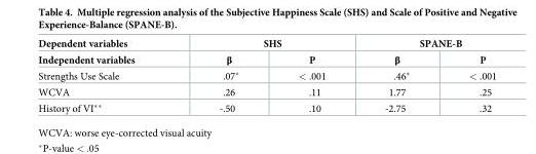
<table><thead><tr><td rowspan="2">Dependent variables Independent variables</td><td colspan="2">SHS</td><td colspan="2">SPANE-B</td></tr><tr><td>β</td><td>P</td><td>β</td><td>P</td></tr></thead><tbody><tr><td>Strengths Use Scale</td><td>.07*</td><td>&lt; .001</td><td>.46*</td><td>&lt; .001</td></tr><tr><td>WCVA</td><td>.26</td><td>.11</td><td>1.77</td><td>.25</td></tr><tr><td>History of VI**</td><td>-.50</td><td>.10</td><td>-2.75</td><td>.32</td></tr></tbody></table>